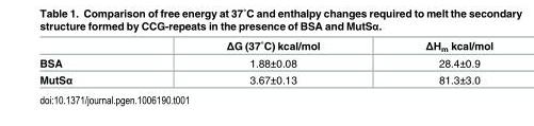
<table><thead><tr><td></td><td>ΔG (37˚C) kcal/mol</td><td>ΔHm kcal/mol</td></tr></thead><tbody><tr><td>BSA</td><td>1.88±0.08</td><td>28.4±0.9</td></tr><tr><td>MutSα</td><td>3.67±0.13</td><td>81.3±3.0</td></tr></tbody></table>